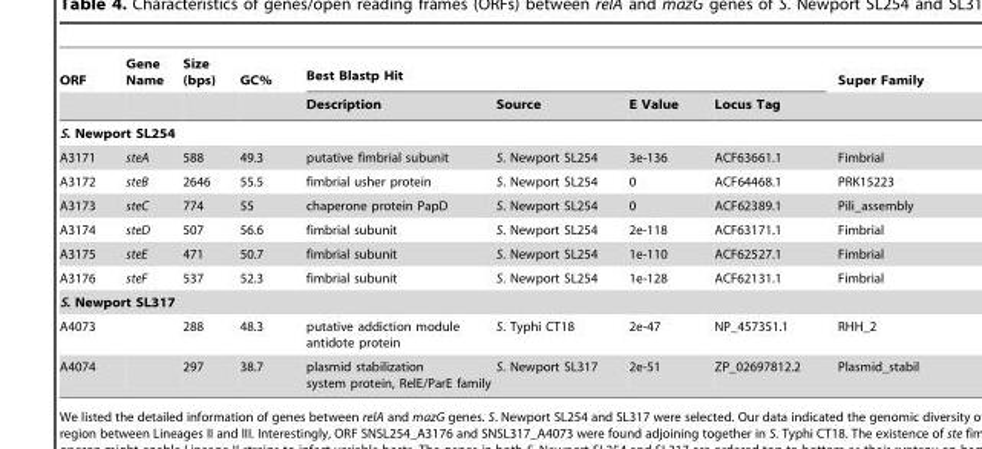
<table><thead><tr><td rowspan="2">ORF</td><td rowspan="2">Gene Name</td><td rowspan="2">Size (bps)</td><td rowspan="2">GC%</td><td colspan="4">Best Blastp Hit</td><td rowspan="2">Super Family</td></tr><tr><td>Description</td><td>Source</td><td>E Value</td><td>Locus Tag</td></tr></thead><tbody><tr><td colspan="9">S. Newport SL254</td></tr><tr><td>A3171</td><td>steA</td><td>588</td><td>49.3</td><td>putative fimbrial subunit</td><td>S. Newport SL254</td><td>3e-136</td><td>ACF63661.1</td><td>Fimbrial</td></tr><tr><td>A3172</td><td>steB</td><td>2646</td><td>55.5</td><td>fimbrial usher protein</td><td>S. Newport SL254</td><td>0</td><td>ACF64468.1</td><td>PRK15223</td></tr><tr><td>A3173</td><td>steC</td><td>774</td><td>55</td><td>chaperone protein PapD</td><td>S. Newport SL254</td><td>0</td><td>ACF62389.1</td><td>Pili_assembly</td></tr><tr><td>A3174</td><td>steD</td><td>507</td><td>56.6</td><td>fimbrial subunit</td><td>S. Newport SL254</td><td>2e-118</td><td>ACF63171.1</td><td>Fimbrial</td></tr><tr><td>A3175</td><td>steE</td><td>471</td><td>50.7</td><td>fimbrial subunit</td><td>S. Newport SL254</td><td>1e-110</td><td>ACF62527.1</td><td>Fimbrial</td></tr><tr><td>A3176</td><td>steF</td><td>537</td><td>52.3</td><td>fimbrial subunit</td><td>S. Newport SL254</td><td>1e-128</td><td>ACF62131.1</td><td>Fimbrial</td></tr><tr><td colspan="9">S. Newport SL317</td></tr><tr><td>A4073</td><td></td><td>288</td><td>48.3</td><td>putative addiction module antidote protein</td><td>S. Typhi CT18</td><td>2e-47</td><td>NP_457351.1</td><td>RHH_2</td></tr><tr><td>A4074</td><td></td><td>297</td><td>38.7</td><td>plasmid stabilization system protein, RelE/ParE family</td><td>S. Newport SL317</td><td>2e-51</td><td>ZP_02697812.2</td><td>Plasmid_stabil</td></tr></tbody></table>